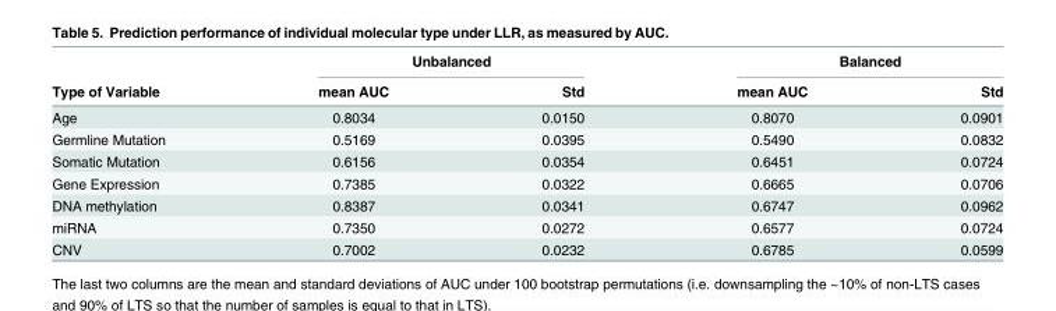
<table><thead><tr><td rowspan="2">Type of Variable</td><td colspan="2">Unbalanced</td><td colspan="2">Balanced</td></tr><tr><td>mean AUC</td><td>Std</td><td>mean AUC</td><td>Std</td></tr></thead><tbody><tr><td>Age</td><td>0.8034</td><td>0.0150</td><td>0.8070</td><td>0.0901</td></tr><tr><td>Germline Mutation</td><td>0.5169</td><td>0.0395</td><td>0.5490</td><td>0.0832</td></tr><tr><td>Somatic Mutation</td><td>0.6156</td><td>0.0354</td><td>0.6451</td><td>0.0724</td></tr><tr><td>Gene Expression</td><td>0.7385</td><td>0.0322</td><td>0.6665</td><td>0.0706</td></tr><tr><td>DNA methylation</td><td>0.8387</td><td>0.0341</td><td>0.6747</td><td>0.0962</td></tr><tr><td>miRNA</td><td>0.7350</td><td>0.0272</td><td>0.6577</td><td>0.0724</td></tr><tr><td>CNV</td><td>0.7002</td><td>0.0232</td><td>0.6785</td><td>0.0599</td></tr></tbody></table>